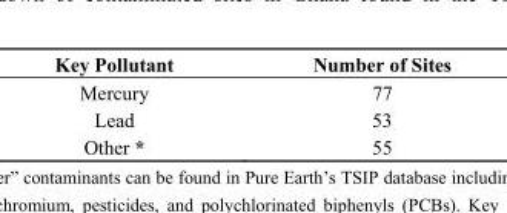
<table><thead><tr><td>Key Pollutant</td><td>Number of Sites</td></tr></thead><tbody><tr><td>Mercury</td><td>77</td></tr><tr><td>Lead</td><td>53</td></tr><tr><td>Other *</td><td>55</td></tr></tbody></table>